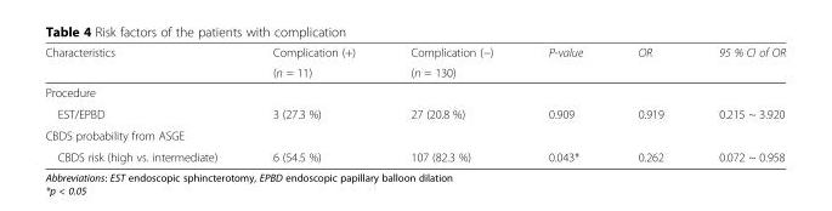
<table><thead><tr><td rowspan="2">Characteristics</td><td rowspan="2">Complication (+) (n = 11)</td><td rowspan="2">Complication (−) (n = 130)</td><td rowspan="2">P-value</td><td rowspan="2">OR</td><td rowspan="2">95 % CI of OR</td></tr><tr></tr></thead><tbody><tr><td colspan="6">Procedure</td></tr><tr><td>EST/EPBD</td><td>3 (27.3 %)</td><td>27 (20.8 %)</td><td>0.909</td><td>0.919</td><td>0.215 ~ 3.920</td></tr><tr><td colspan="6">CBDS probability from ASGE</td></tr><tr><td>CBDS risk (high vs. intermediate)</td><td>6 (54.5 %)</td><td>107 (82.3 %)</td><td>0.043*</td><td>0.262</td><td>0.072 ~ 0.958</td></tr></tbody></table>